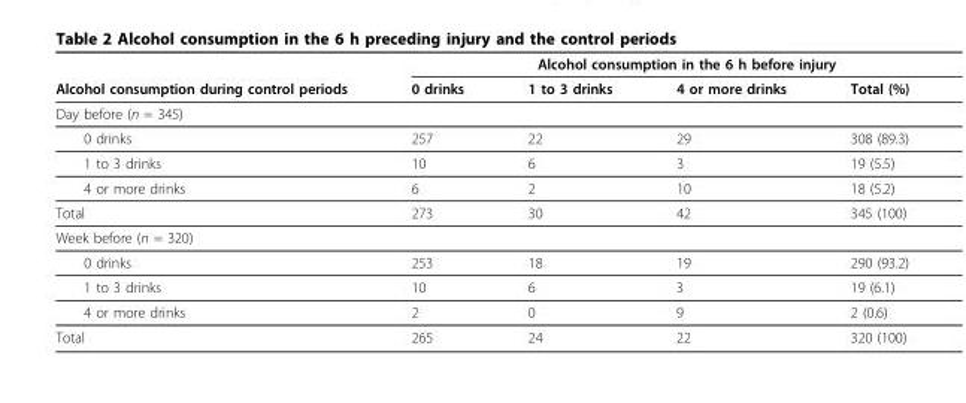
<table><thead><tr><td rowspan="2">Alcohol consumption during control periods</td><td colspan="4">Alcohol consumption in the 6 h before injury</td></tr><tr><td>0 drinks</td><td>1 to 3 drinks</td><td>4 or more drinks</td><td>Total (%)</td></tr></thead><tbody><tr><td colspan="5">Day before (n = 345)</td></tr><tr><td>0 drinks</td><td>257</td><td>22</td><td>29</td><td>308 (89.3)</td></tr><tr><td>1 to 3 drinks</td><td>10</td><td>6</td><td>3</td><td>19 (5.5)</td></tr><tr><td>4 or more drinks</td><td>6</td><td>2</td><td>10</td><td>18 (5.2)</td></tr><tr><td>Total</td><td>273</td><td>30</td><td>42</td><td>345 (100)</td></tr><tr><td colspan="5">Week before (n = 320)</td></tr><tr><td>0 drinks</td><td>253</td><td>18</td><td>19</td><td>290 (93.2)</td></tr><tr><td>1 to 3 drinks</td><td>10</td><td>6</td><td>3</td><td>19 (6.1)</td></tr><tr><td>4 or more drinks</td><td>2</td><td>0</td><td>9</td><td>2 (0.6)</td></tr><tr><td>Total</td><td>265</td><td>24</td><td>22</td><td>320 (100)</td></tr></tbody></table>